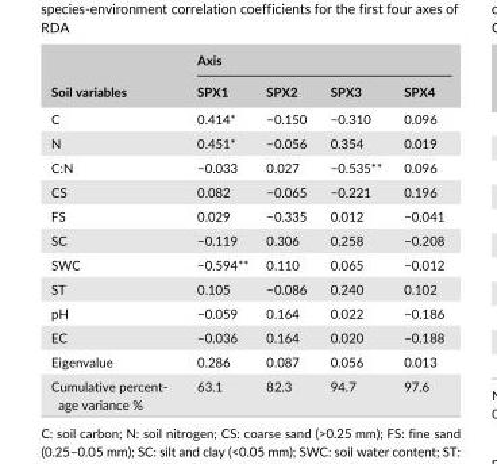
<table><thead><tr><td rowspan="2">Soil variables</td><td colspan="4">Axis</td></tr><tr><td>SPX1</td><td>SPX2</td><td>SPX3</td><td>SPX4</td></tr></thead><tbody><tr><td>C</td><td>0.414*</td><td>−0.150</td><td>−0.310</td><td>0.096</td></tr><tr><td>N</td><td>0.451*</td><td>−0.056</td><td>0.354</td><td>0.019</td></tr><tr><td>C:N</td><td>−0.033</td><td>0.027</td><td>−0.535**</td><td>0.096</td></tr><tr><td>CS</td><td>0.082</td><td>−0.065</td><td>−0.221</td><td>0.196</td></tr><tr><td>FS</td><td>0.029</td><td>−0.335</td><td>0.012</td><td>−0.041</td></tr><tr><td>SC</td><td>−0.119</td><td>0.306</td><td>0.258</td><td>−0.208</td></tr><tr><td>SWC</td><td>−0.594**</td><td>0.110</td><td>0.065</td><td>−0.012</td></tr><tr><td>ST</td><td>0.105</td><td>−0.086</td><td>0.240</td><td>0.102</td></tr><tr><td>pH</td><td>−0.059</td><td>0.164</td><td>0.022</td><td>−0.186</td></tr><tr><td>EC</td><td>−0.036</td><td>0.164</td><td>0.020</td><td>−0.188</td></tr><tr><td>Eigenvalue</td><td>0.286</td><td>0.087</td><td>0.056</td><td>0.013</td></tr><tr><td>Cumulative percent- age variance %</td><td>63.1</td><td>82.3</td><td>94.7</td><td>97.6</td></tr></tbody></table>